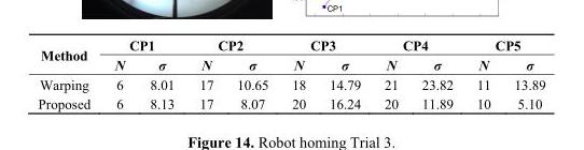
<table><thead><tr><td rowspan="2">Method</td><td colspan="2">CP1</td><td colspan="2">CP2</td><td colspan="2">CP3</td><td colspan="2">CP4</td><td colspan="2">CP5</td></tr><tr><td>N</td><td>σ</td><td>N</td><td>σ</td><td>N</td><td>σ</td><td>N</td><td>σ</td><td>N</td><td>σ</td></tr></thead><tbody><tr><td>Warping</td><td>6</td><td>8.01</td><td>17</td><td>10.65</td><td>18</td><td>14.79</td><td>21</td><td>23.82</td><td>11</td><td>13.89</td></tr><tr><td>Proposed</td><td>6</td><td>8.13</td><td>17</td><td>8.07</td><td>20</td><td>16.24</td><td>20</td><td>11.89</td><td>10</td><td>5.10</td></tr></tbody></table>